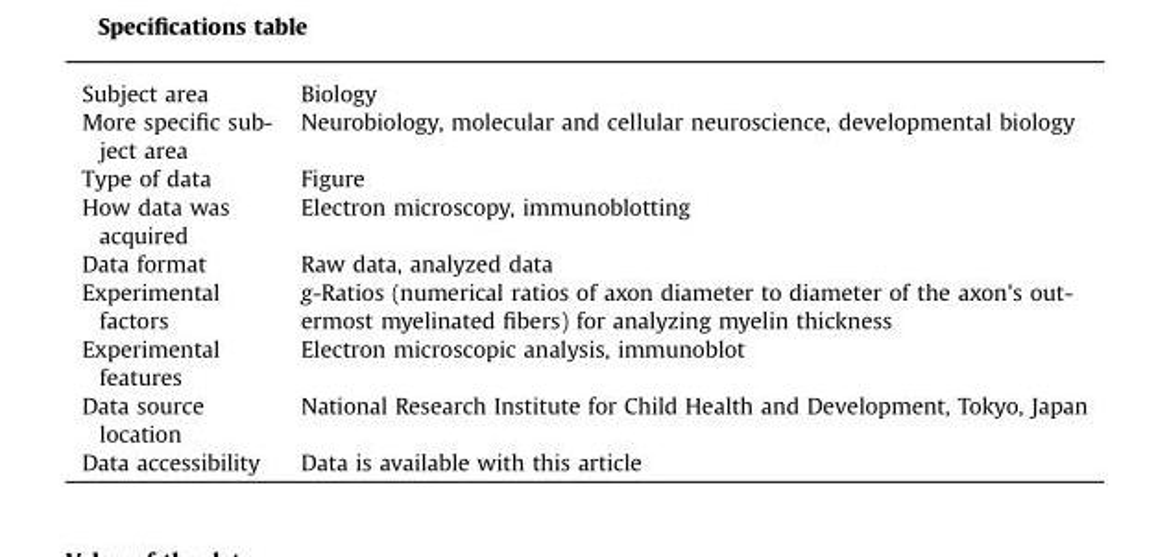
<table><thead><tr><td>Subject area</td><td>Biology</td></tr></thead><tbody><tr><td>More specific sub- ject area</td><td>Neurobiology, molecular and cellular neuroscience, developmental biology</td></tr><tr><td>Type of data</td><td>Figure</td></tr><tr><td>How data was acquired</td><td>Electron microscopy, immunoblotting</td></tr><tr><td>Data format</td><td>Raw data, analyzed data</td></tr><tr><td>Experimental factors</td><td>g-Ratios (numerical ratios of axon diameter to diameter of the axon&#x27;s out- ermost myelinated fibers) for analyzing myelin thickness</td></tr><tr><td>Experimental features</td><td>Electron microscopic analysis, immunoblot</td></tr><tr><td>Data source location</td><td>National Research Institute for Child Health and Development, Tokyo, Japan</td></tr><tr><td>Data accessibility</td><td>Data is available with this article</td></tr></tbody></table>